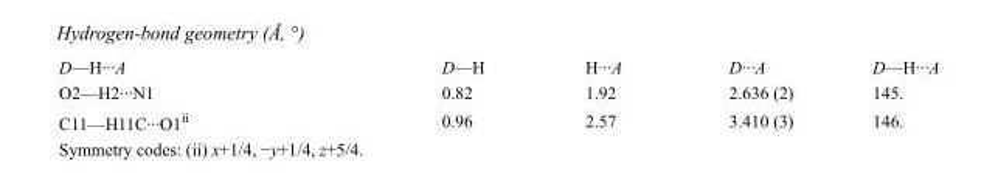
<table><tbody><tr><td>D—H···A</td><td>D—H</td><td>H···A</td><td>D···A</td><td>D—H···A</td></tr><tr><td>O2—H2···N1</td><td>0.82</td><td>1.92</td><td>2.636 (2)</td><td>145.</td></tr><tr><td>C11—H11C···O1<sup>ii</sup></td><td>0.96</td><td>2.57</td><td>3.410 (3)</td><td>146.</td></tr></tbody></table>